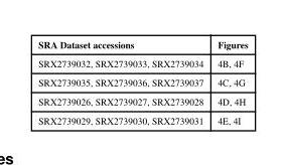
<table><thead><tr><td>SRA Dataset accessions</td><td>Figures</td></tr></thead><tbody><tr><td>SRX2739032, SRX2739033, SRX2739034</td><td>4B, 4F</td></tr><tr><td>SRX2739035, SRX2739036, SRX2739037</td><td>4C, 4G</td></tr><tr><td>SRX2739026, SRX2739027, SRX2739028</td><td>4D, 4H</td></tr><tr><td>SRX2739029, SRX2739030, SRX2739031</td><td>4E, 4I</td></tr></tbody></table>